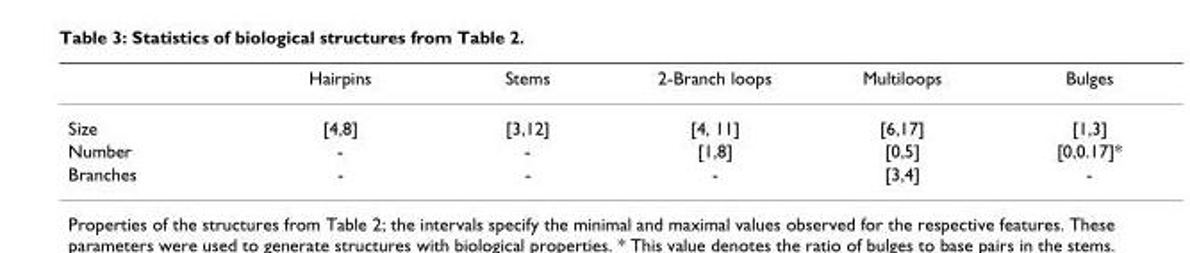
<table><thead><tr><td></td><td>Hairpins</td><td>Stems</td><td>2-Branch loops</td><td>Multiloops</td><td>Bulges</td></tr></thead><tbody><tr><td>Size</td><td>[4,8]</td><td>[3,12]</td><td>[4, 11]</td><td>[6,17]</td><td>[1,3]</td></tr><tr><td>Number</td><td>-</td><td>-</td><td>[1,8]</td><td>[0,5]</td><td>[0,0.17]*</td></tr><tr><td>Branches</td><td>-</td><td>-</td><td>-</td><td>[3,4]</td><td>-</td></tr></tbody></table>